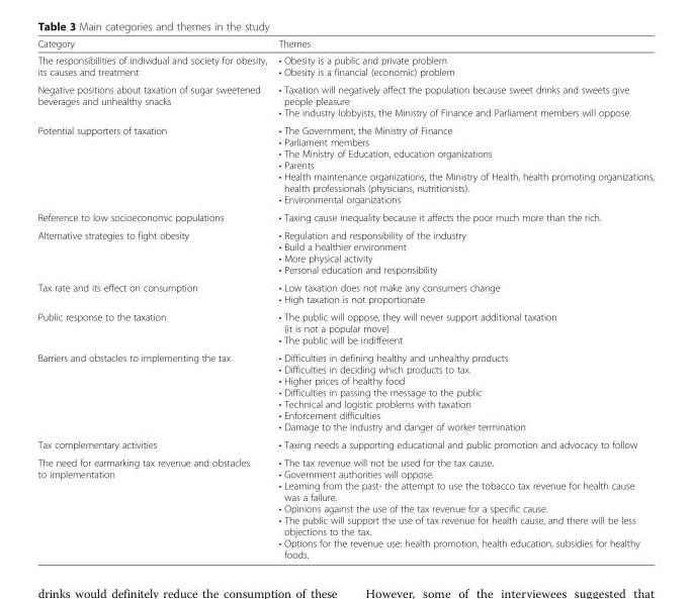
<table><thead><tr><td>Category</td><td>Themes</td></tr></thead><tbody><tr><td>The responsibilities of individual and society for obesity, its causes and treatment</td><td>• Obesity is a public and private problem • Obesity is a financial (economic) problem</td></tr><tr><td>Negative positions about taxation of sugar sweetened beverages and unhealthy snacks</td><td>• Taxation will negatively affect the population because sweet drinks and sweets give people pleasure • The industry lobbyists, the Ministry of Finance and Parliament members will oppose.</td></tr><tr><td>Potential supporters of taxation</td><td>• The Government, the Ministry of Finance • Parliament members • The Ministry of Education, education organizations • Parents • Health maintenance organizations, the Ministry of Health, health promoting organizations, health professionals (physicians, nutritionists). • Environmental organizations</td></tr><tr><td>Reference to low socioeconomic populations</td><td>• Taxing cause inequality because it affects the poor much more than the rich.</td></tr><tr><td>Alternative strategies to fight obesity</td><td>• Regulation and responsibility of the industry • Build a healthier environment • More physical activity • Personal education and responsibility</td></tr><tr><td>Tax rate and its effect on consumption</td><td>• Low taxation does not make any consumers change • High taxation is not proportionate</td></tr><tr><td>Public response to the taxation</td><td>• The public will oppose, they will never support additional taxation (it is not a popular move) • The public will be indifferent</td></tr><tr><td>Barriers and obstacles to implementing the tax</td><td>• Difficulties in defining healthy and unhealthy products • Difficulties in deciding which products to tax. • Higher prices of healthy food • Difficulties in passing the message to the public • Technical and logistic problems with taxation • Enforcement difficulties • Damage to the Industry and danger of worker termination</td></tr><tr><td>Tax complementary activities</td><td>• Taxing needs a supporting educational and public promotion and advocacy to follow</td></tr><tr><td>The need for earmarking tax revenue and obstacles to implementation</td><td>• The tax revenue will not be used for the tax cause. • Government authorities will oppose. • Learning from the past- the attempt to use the tobacco tax revenue for health cause was a failure. • Opinions against the use of the tax revenue for a specific cause. • The public will support the use of tax revenue for health cause, and there will be less objections to the tax. • Options for the revenue use: health promotion, health education, subsidies for healthy foods.</td></tr></tbody></table>